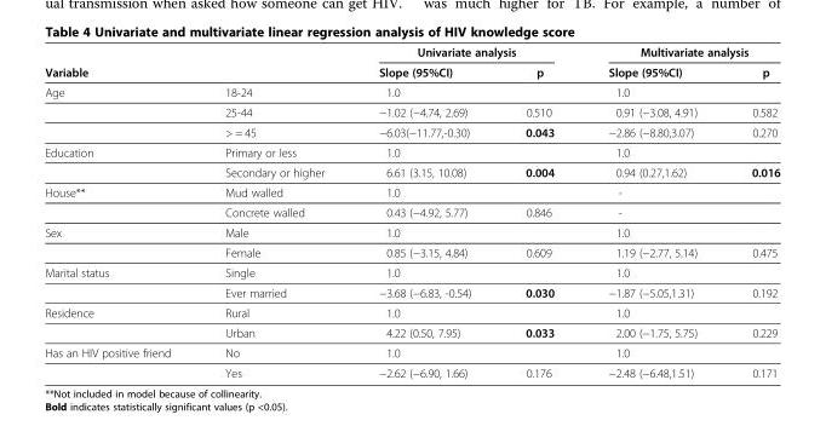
<table><thead><tr><td rowspan="2">Variable</td><td rowspan="2"></td><td colspan="2">Univariate analysis</td><td colspan="2">Multivariate analysis</td></tr><tr><td>Slope (95%CI)</td><td>p</td><td>Slope (95%CI)</td><td>p</td></tr></thead><tbody><tr><td rowspan="3">Age</td><td>18-24</td><td>1.0</td><td></td><td>1.0</td><td></td></tr><tr><td>25-44</td><td>−1.02 (−4.74, 2.69)</td><td>0.510</td><td>0.91 (−3.08, 4.91)</td><td>0.582</td></tr><tr><td>&gt; = 45</td><td>−6.03(−11.77,-0.30)</td><td>0.043</td><td>−2.86 (−8.80,3.07)</td><td>0.270</td></tr><tr><td rowspan="2">Education</td><td>Primary or less</td><td>1.0</td><td></td><td>1.0</td><td></td></tr><tr><td>Secondary or higher</td><td>6.61 (3.15, 10.08)</td><td>0.004</td><td>0.94 (0.27,1.62)</td><td>0.016</td></tr><tr><td rowspan="2">House**</td><td>Mud walled</td><td>1.0</td><td></td><td>-</td><td></td></tr><tr><td>Concrete walled</td><td>0.43 (−4.92, 5.77)</td><td>0.846</td><td>-</td><td></td></tr><tr><td rowspan="2">Sex</td><td>Male</td><td>1.0</td><td></td><td>1.0</td><td></td></tr><tr><td>Female</td><td>0.85 (−3.15, 4.84)</td><td>0.609</td><td>1.19 (−2.77, 5.14)</td><td>0.475</td></tr><tr><td rowspan="2">Marital status</td><td>Single</td><td>1.0</td><td></td><td>1.0</td><td></td></tr><tr><td>Ever married</td><td>−3.68 (−6.83, -0.54)</td><td>0.030</td><td>−1.87 (−5.05,1.31)</td><td>0.192</td></tr><tr><td rowspan="2">Residence</td><td>Rural</td><td>1.0</td><td></td><td>1.0</td><td></td></tr><tr><td>Urban</td><td>4.22 (0.50, 7.95)</td><td>0.033</td><td>2.00 (−1.75, 5.75)</td><td>0.229</td></tr><tr><td rowspan="2">Has an HIV positive friend</td><td>No</td><td>1.0</td><td></td><td>1.0</td><td></td></tr><tr><td>Yes</td><td>−2.62 (−6.90, 1.66)</td><td>0.176</td><td>−2.48 (−6.48,1.51)</td><td>0.171</td></tr></tbody></table>